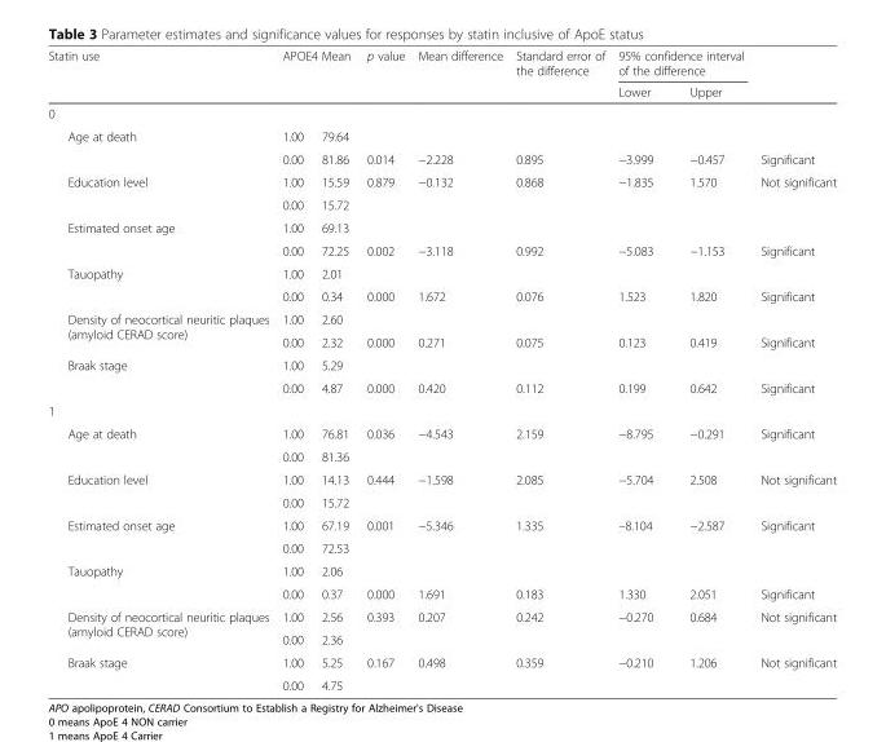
<table><thead><tr><td rowspan="2" colspan="2">Statin use</td><td rowspan="2" colspan="2">APOE4 Mean</td><td rowspan="3">p value</td><td rowspan="3">Mean difference</td><td rowspan="3">Standard error of the difference</td><td colspan="2">95% confidence interval of the difference</td><td rowspan="3"></td></tr><tr><td rowspan="2">Lower</td><td rowspan="2">Upper</td></tr><tr><td>0</td><td></td><td></td><td></td></tr></thead><tbody><tr><td rowspan="12"></td><td rowspan="2">Age at death</td><td>1.00</td><td>79.64</td><td></td><td></td><td></td><td></td><td></td><td></td></tr><tr><td>0.00</td><td>81.86</td><td>0.014</td><td>−2.228</td><td>0.895</td><td>−3.999</td><td>−0.457</td><td>Significant</td></tr><tr><td rowspan="2">Education level</td><td>1.00</td><td>15.59</td><td>0.879</td><td>−0.132</td><td>0.868</td><td>−1.835</td><td>1.570</td><td>Not significant</td></tr><tr><td>0.00</td><td>15.72</td><td></td><td></td><td></td><td></td><td></td><td></td></tr><tr><td rowspan="2">Estimated onset age</td><td>1.00</td><td>69.13</td><td></td><td></td><td></td><td></td><td></td><td></td></tr><tr><td>0.00</td><td>72.25</td><td>0.002</td><td>−3.118</td><td>0.992</td><td>−5.083</td><td>−1.153</td><td>Significant</td></tr><tr><td rowspan="2">Tauopathy</td><td>1.00</td><td>2.01</td><td></td><td></td><td></td><td></td><td></td><td></td></tr><tr><td>0.00</td><td>0.34</td><td>0.000</td><td>1.672</td><td>0.076</td><td>1.523</td><td>1.820</td><td>Significant</td></tr><tr><td rowspan="2">Density of neocortical neuritic plaques (amyloid CERAD score)</td><td>1.00</td><td>2.60</td><td></td><td></td><td></td><td></td><td></td><td></td></tr><tr><td>0.00</td><td>2.32</td><td>0.000</td><td>0.271</td><td>0.075</td><td>0.123</td><td>0.419</td><td>Significant</td></tr><tr><td rowspan="2">Braak stage</td><td>1.00</td><td>5.29</td><td></td><td></td><td></td><td></td><td></td><td></td></tr><tr><td>0.00</td><td>4.87</td><td>0.000</td><td>0.420</td><td>0.112</td><td>0.199</td><td>0.642</td><td>Significant</td></tr><tr><td colspan="10">1</td></tr><tr><td rowspan="12"></td><td rowspan="2">Age at death</td><td>1.00</td><td>76.81</td><td>0.036</td><td>−4.543</td><td>2.159</td><td>−8.795</td><td>−0.291</td><td>Significant</td></tr><tr><td>0.00</td><td>81.36</td><td></td><td></td><td></td><td></td><td></td><td></td></tr><tr><td rowspan="2">Education level</td><td>1.00</td><td>14.13</td><td>0.444</td><td>−1.598</td><td>2.085</td><td>−5.704</td><td>2.508</td><td>Not significant</td></tr><tr><td>0.00</td><td>15.72</td><td></td><td></td><td></td><td></td><td></td><td></td></tr><tr><td rowspan="2">Estimated onset age</td><td>1.00</td><td>67.19</td><td>0.001</td><td>−5.346</td><td>1.335</td><td>–8.104</td><td>−2.587</td><td>Significant</td></tr><tr><td>0.00</td><td>72.53</td><td></td><td></td><td></td><td></td><td></td><td></td></tr><tr><td rowspan="2">Tauopathy</td><td>1.00</td><td>2.06</td><td></td><td></td><td></td><td></td><td></td><td></td></tr><tr><td>0.00</td><td>0.37</td><td>0.000</td><td>1.691</td><td>0.183</td><td>1.330</td><td>2.051</td><td>Significant</td></tr><tr><td rowspan="2">Density of neocortical neuritic plaques (amyloid CERAD score)</td><td>1.00</td><td>2.56</td><td>0.393</td><td>0.207</td><td>0.242</td><td>−0.270</td><td>0.684</td><td>Not significant</td></tr><tr><td>0.00</td><td>2.36</td><td></td><td></td><td></td><td></td><td></td><td></td></tr><tr><td rowspan="2">Braak stage</td><td>1.00</td><td>5.25</td><td>0.167</td><td>0.498</td><td>0.359</td><td>−0.210</td><td>1.206</td><td>Not significant</td></tr><tr><td>0.00</td><td>4.75</td><td></td><td></td><td></td><td></td><td></td><td></td></tr></tbody></table>